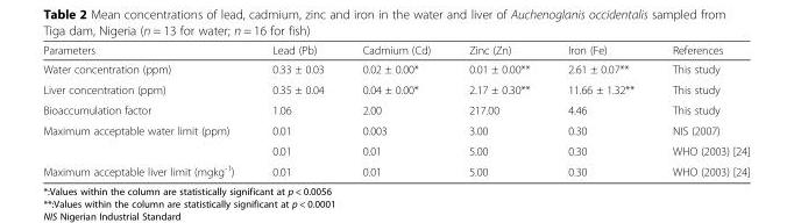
<table><thead><tr><td>Parameters</td><td>Lead (Pb)</td><td>Cadmium (Cd)</td><td>Zinc (Zn)</td><td>Iron (Fe)</td><td>References</td></tr></thead><tbody><tr><td>Water concentration (ppm)</td><td>0.33 ± 0.03</td><td>0.02 ± 0.00*</td><td>0.01 ± 0.00**</td><td>2.61 ± 0.07**</td><td>This study</td></tr><tr><td>Liver concentration (ppm)</td><td>0.35 ± 0.04</td><td>0.04 ± 0.00*</td><td>2.17 ± 0.30**</td><td>11.66 ± 1.32**</td><td>This study</td></tr><tr><td>Bioaccumulation factor</td><td>1.06</td><td>2.00</td><td>217.00</td><td>4.46</td><td>This study</td></tr><tr><td rowspan="2">Maximum acceptable water limit (ppm)</td><td>0.01</td><td>0.003</td><td>3.00</td><td>0.30</td><td>NIS (2007)</td></tr><tr><td>0.01</td><td>0.01</td><td>5.00</td><td>0.30</td><td>WHO (2003) [24]</td></tr><tr><td>Maximum acceptable liver limit (mgkg<sup>-1</sup>)</td><td>0.01</td><td>0.01</td><td>5.00</td><td>0.30</td><td>WHO (2003) [24]</td></tr></tbody></table>